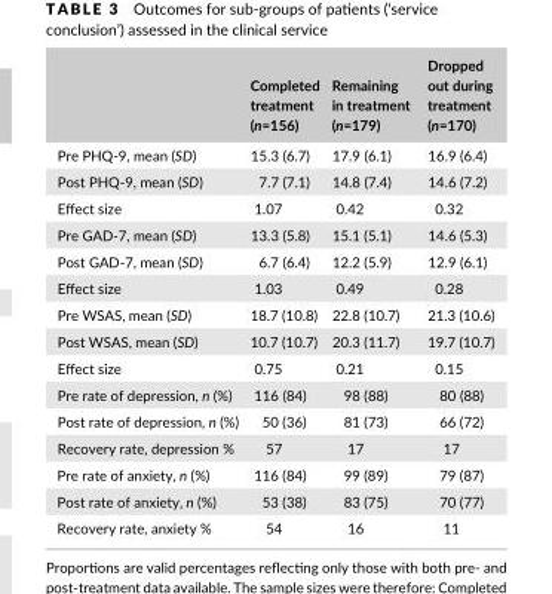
<table><thead><tr><td></td><td>Completed treatment (n=156)</td><td>Remaining in treatment (n=179)</td><td>Dropped out during treatment (n=170)</td></tr></thead><tbody><tr><td>Pre PHQ- 9, mean (SD)</td><td>15.3 (6.7)</td><td>17.9 (6.1)</td><td>16.9 (6.4)</td></tr><tr><td>Post PHQ- 9, mean (SD)</td><td>7.7 (7.1)</td><td>14.8 (7.4)</td><td>14.6 (7.2)</td></tr><tr><td>Effect size</td><td>1.07</td><td>0.42</td><td>0.32</td></tr><tr><td>Pre GAD- 7, mean (SD)</td><td>13.3 (5.8)</td><td>15.1 (5.1)</td><td>14.6 (5.3)</td></tr><tr><td>Post GAD- 7, mean (SD)</td><td>6.7 (6.4)</td><td>12.2 (5.9)</td><td>12.9 (6.1)</td></tr><tr><td>Effect size</td><td>1.03</td><td>0.49</td><td>0.28</td></tr><tr><td>Pre WSAS, mean (SD)</td><td>18.7 (10.8)</td><td>22.8 (10.7)</td><td>21.3 (10.6)</td></tr><tr><td>Post WSAS, mean (SD)</td><td>10.7 (10.7)</td><td>20.3 (11.7)</td><td>19.7 (10.7)</td></tr><tr><td>Effect size</td><td>0.75</td><td>0.21</td><td>0.15</td></tr><tr><td>Pre rate of depression, n (%)</td><td>116 (84)</td><td>98 (88)</td><td>80 (88)</td></tr><tr><td>Post rate of depression, n (%)</td><td>50 (36)</td><td>81 (73)</td><td>66 (72)</td></tr><tr><td>Recovery rate, depression %</td><td>57</td><td>17</td><td>17</td></tr><tr><td>Pre rate of anxiety, n (%)</td><td>116 (84)</td><td>99 (89)</td><td>79 (87)</td></tr><tr><td>Post rate of anxiety, n (%)</td><td>53 (38)</td><td>83 (75)</td><td>70 (77)</td></tr><tr><td>Recovery rate, anxiety %</td><td>54</td><td>16</td><td>11</td></tr></tbody></table>